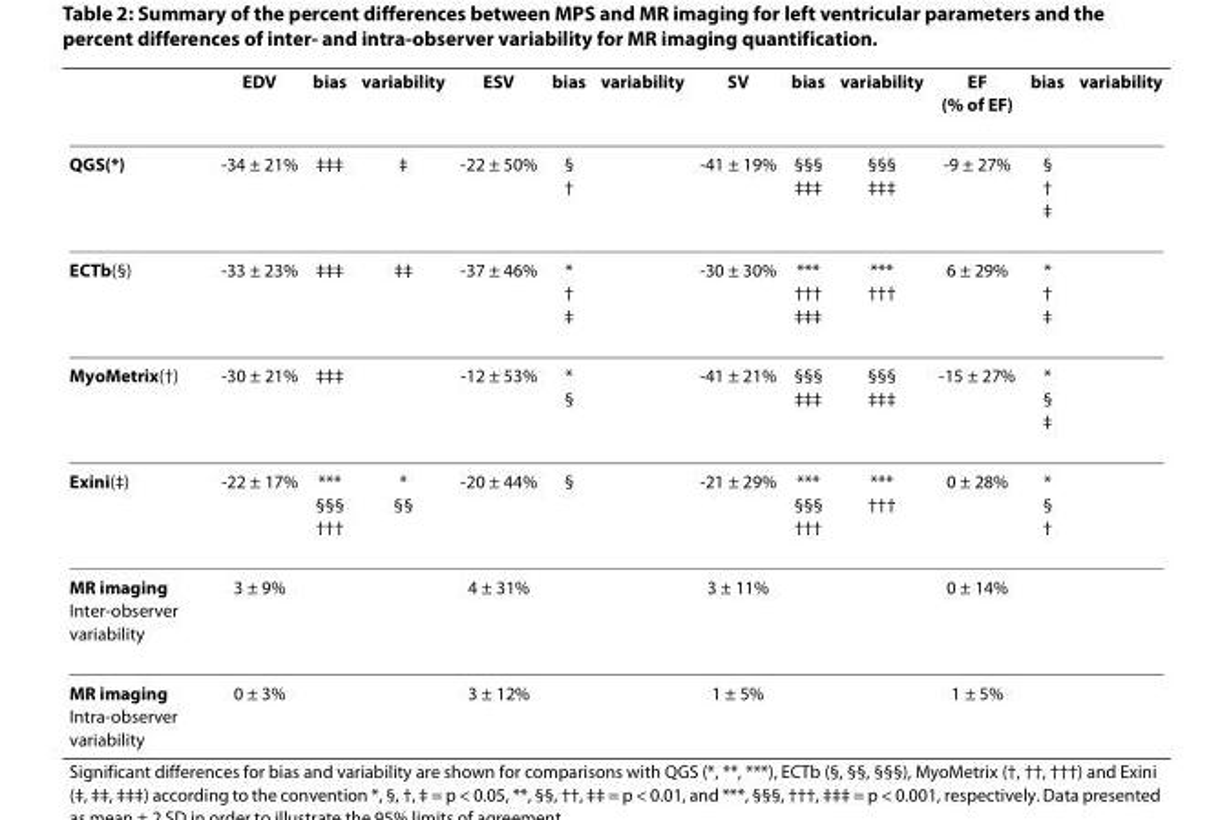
<table><thead><tr><td></td><td>EDV</td><td>bias</td><td>variability</td><td>ESV</td><td>bias</td><td>variability</td><td>SV</td><td>bias</td><td>variability</td><td>EF (% of EF)</td><td>bias</td><td>variability</td></tr></thead><tbody><tr><td>QGS(*)</td><td>-34 ± 21%</td><td>‡‡‡</td><td>‡</td><td>-22 ± 50%</td><td>§ †</td><td></td><td>-41 ± 19%</td><td>§§§ ‡‡‡</td><td>§§§ ‡‡‡</td><td>-9 ± 27%</td><td>§ † ‡</td><td></td></tr><tr><td>ECTb(§)</td><td>-33 ± 23%</td><td>‡‡‡</td><td>‡‡</td><td>-37 ± 46%</td><td>* † ‡</td><td></td><td>-30 ± 30%</td><td>*** ††† ‡‡‡</td><td>*** †††</td><td>6 ± 29%</td><td>* † ‡</td><td></td></tr><tr><td>MyoMetrix(†)</td><td>-30 ± 21%</td><td>‡‡‡</td><td></td><td>-12 ± 53%</td><td>* §</td><td></td><td>-41 ± 21%</td><td>§§§ ‡‡‡</td><td>§§§ ‡‡‡</td><td>-15 ± 27%</td><td>* § ‡</td><td></td></tr><tr><td>Exini(‡)</td><td>-22 ± 17%</td><td>*** §§§ †††</td><td>* §§</td><td>-20 ± 44%</td><td>§</td><td></td><td>-21 ± 29%</td><td>*** §§§ †††</td><td>*** †††</td><td>0 ± 28%</td><td>* § †</td><td></td></tr><tr><td>MR imaging Inter-observer variability</td><td>3 ± 9%</td><td></td><td></td><td>4 ± 31%</td><td></td><td></td><td>3 ± 11%</td><td></td><td></td><td>0 ± 14%</td><td></td><td></td></tr><tr><td>MR imaging Intra-observer variability</td><td>0 ± 3%</td><td></td><td></td><td>3 ± 12%</td><td></td><td></td><td>1 ± 5%</td><td></td><td></td><td>1 ± 5%</td><td></td><td></td></tr></tbody></table>